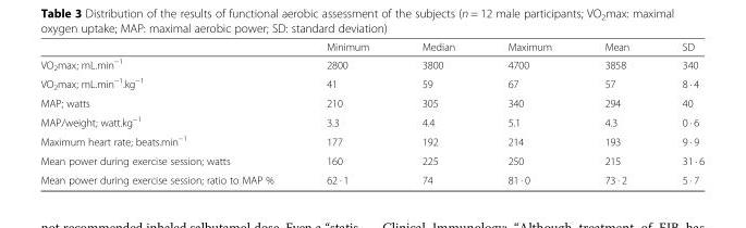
<table><thead><tr><td></td><td>Minimum</td><td>Median</td><td>Maximum</td><td>Mean</td><td>SD</td></tr></thead><tbody><tr><td>VO<sub>2</sub>max; mL.min<sup>−1</sup></td><td>2800</td><td>3800</td><td>4700</td><td>3858</td><td>340</td></tr><tr><td>VO<sub>2</sub>max; mL.min<sup>−1</sup>.kg<sup>−1</sup></td><td>41</td><td>59</td><td>67</td><td>57</td><td>8 · 4</td></tr><tr><td>MAP; watts</td><td>210</td><td>305</td><td>340</td><td>294</td><td>40</td></tr><tr><td>MAP/weight; watt.kg<sup>−1</sup></td><td>3.3</td><td>4.4</td><td>5.1</td><td>4.3</td><td>0 · 6</td></tr><tr><td>Maximum heart rate; beats.min<sup>−1</sup></td><td>177</td><td>192</td><td>214</td><td>193</td><td>9 · 9</td></tr><tr><td>Mean power during exercise session; watts</td><td>160</td><td>225</td><td>250</td><td>215</td><td>31 · 6</td></tr><tr><td>Mean power during exercise session; ratio to MAP %</td><td>62 · 1</td><td>74</td><td>81 · 0</td><td>73 · 2</td><td>5 · 7</td></tr></tbody></table>